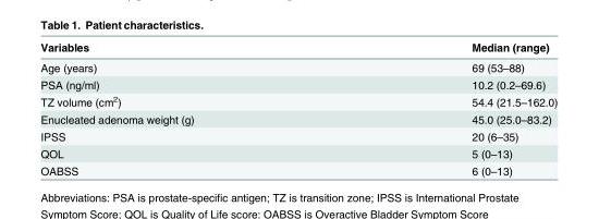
<table><thead><tr><td>Variables</td><td>Median (range)</td></tr></thead><tbody><tr><td>Age (years)</td><td>69 (53–88)</td></tr><tr><td>PSA (ng/ml)</td><td>10.2 (0.2–69.6)</td></tr><tr><td>TZ volume (cm<sup>2</sup>)</td><td>54.4 (21.5–162.0)</td></tr><tr><td>Enucleated adenoma weight (g)</td><td>45.0 (25.0–83.2)</td></tr><tr><td>IPSS</td><td>20 (6–35)</td></tr><tr><td>QOL</td><td>5 (0–13)</td></tr><tr><td>OABSS</td><td>6 (0–13)</td></tr></tbody></table>